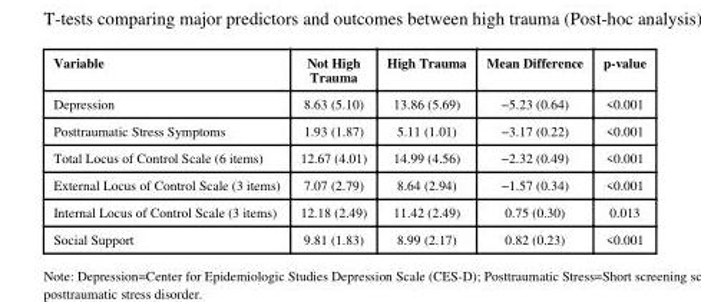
<table><thead><tr><td>Variable</td><td>Not High Trauma</td><td>High Trauma</td><td>Mean Difference</td><td>p-value</td></tr></thead><tbody><tr><td>Depression</td><td>8.63 (5.10)</td><td>13.86 (5.69)</td><td>−5.23 (0.64)</td><td>&lt;0.001</td></tr><tr><td>Posttraumatic Stress Symptoms</td><td>1.93 (1.87)</td><td>5.11 (1.01)</td><td>−3.17 (0.22)</td><td>&lt;0.001</td></tr><tr><td>Total Locus of Control Scale (6 items)</td><td>12.67 (4.01)</td><td>14.99 (4.56)</td><td>−2.32 (0.49)</td><td>&lt;0.001</td></tr><tr><td>External Locus of Control Scale (3 items)</td><td>7.07 (2.79)</td><td>8.64 (2.94)</td><td>−1.57 (0.34)</td><td>&lt;0.001</td></tr><tr><td>Internal Locus of Control Scale (3 items)</td><td>12.18 (2.49)</td><td>11.42 (2.49)</td><td>0.75 (0.30)</td><td>0.013</td></tr><tr><td>Social Support</td><td>9.81 (1.83)</td><td>8.99 (2.17)</td><td>0.82 (0.23)</td><td>&lt;0.001</td></tr></tbody></table>